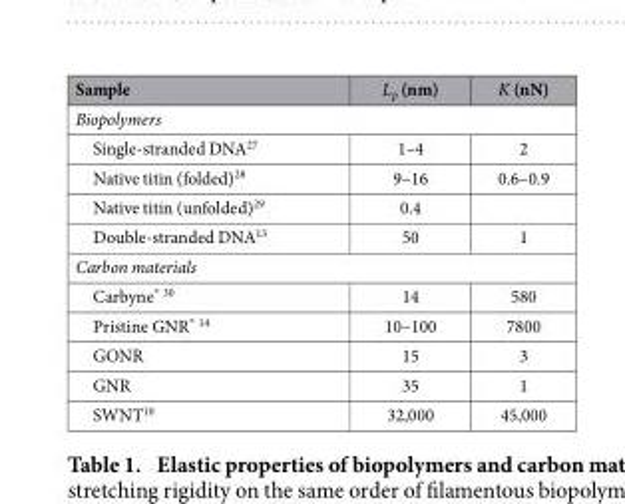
<table><thead><tr><td>Sample</td><td>L<sub>p</sub> (nm)</td><td>K (nN)</td></tr></thead><tbody><tr><td colspan="3">Biopolymers</td></tr><tr><td>Single-stranded DNA<sup>27</sup></td><td>1–4</td><td>2</td></tr><tr><td>Native titin (folded)<sup>28</sup></td><td>9–16</td><td>0.6–0.9</td></tr><tr><td>Native titin (unfolded)<sup>29</sup></td><td>0.4</td><td></td></tr><tr><td>Double-stranded DNA<sup>13</sup></td><td>50</td><td>1</td></tr><tr><td colspan="3">Carbon materials</td></tr><tr><td>Carbyne* <sup>30</sup></td><td>14</td><td>580</td></tr><tr><td>Pristine GNR* <sup>14</sup></td><td>10–100</td><td>7800</td></tr><tr><td>GONR</td><td>15</td><td>3</td></tr><tr><td>GNR</td><td>35</td><td>1</td></tr><tr><td>SWNT<sup>10</sup></td><td>32,000</td><td>45,000</td></tr></tbody></table>